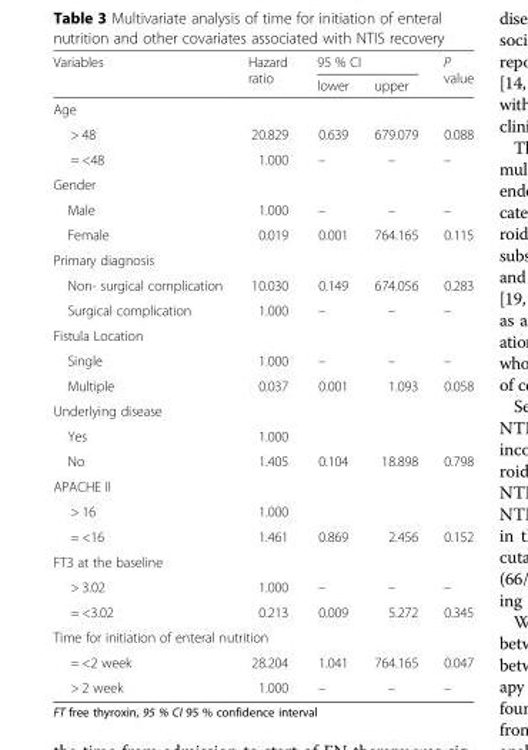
<table><thead><tr><td rowspan="2">Variables</td><td rowspan="2">Hazard ratio</td><td colspan="2">95 % CI</td><td rowspan="2">P value</td></tr><tr><td>lower</td><td>upper</td></tr></thead><tbody><tr><td colspan="5">Age</td></tr><tr><td>&gt; 48</td><td>20.829</td><td>0.639</td><td>679.079</td><td>0.088</td></tr><tr><td>= &lt;48</td><td>1.000</td><td>–</td><td>–</td><td>–</td></tr><tr><td colspan="5">Gender</td></tr><tr><td>Male</td><td>1.000</td><td>–</td><td>–</td><td>–</td></tr><tr><td>Female</td><td>0.019</td><td>0.001</td><td>764.165</td><td>0.115</td></tr><tr><td colspan="5">Primary diagnosis</td></tr><tr><td>Non- surgical complication</td><td>10.030</td><td>0.149</td><td>674.056</td><td>0.283</td></tr><tr><td>Surgical complication</td><td>1.000</td><td>–</td><td>–</td><td>–</td></tr><tr><td colspan="5">Fistula Location</td></tr><tr><td>Single</td><td>1.000</td><td>–</td><td>–</td><td>–</td></tr><tr><td>Multiple</td><td>0.037</td><td>0.001</td><td>1.093</td><td>0.058</td></tr><tr><td colspan="5">Underlying disease</td></tr><tr><td>Yes</td><td>1.000</td><td></td><td></td><td></td></tr><tr><td>No</td><td>1.405</td><td>0.104</td><td>18.898</td><td>0.798</td></tr><tr><td colspan="5">APACHE II</td></tr><tr><td>&gt; 16</td><td>1.000</td><td></td><td></td><td></td></tr><tr><td>= &lt;16</td><td>1.461</td><td>0.869</td><td>2.456</td><td>0.152</td></tr><tr><td colspan="5">FT3 at the baseline</td></tr><tr><td>&gt; 3.02</td><td>1.000</td><td>–</td><td>–</td><td>–</td></tr><tr><td>= &lt;3.02</td><td>0.213</td><td>0.009</td><td>5.272</td><td>0.345</td></tr><tr><td colspan="5">Time for initiation of enteral nutrition</td></tr><tr><td>= &lt;2 week</td><td>28.204</td><td>1.041</td><td>764.165</td><td>0.047</td></tr><tr><td>&gt; 2 week</td><td>1.000</td><td>–</td><td>–</td><td>–</td></tr></tbody></table>